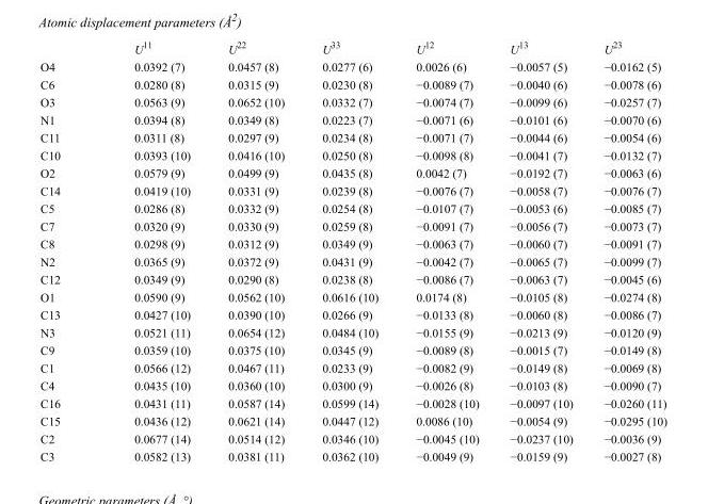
<table><thead><tr><td></td><td>U<sup>11</sup></td><td>U<sup>22</sup></td><td>U<sup>33</sup></td><td>U<sup>12</sup></td><td>U<sup>13</sup></td><td>U<sup>23</sup></td></tr></thead><tbody><tr><td>O4</td><td>0.0392 (7)</td><td>0.0457 (8)</td><td>0.0277 (6)</td><td>0.0026 (6)</td><td>−0.0057 (5)</td><td>−0.0162 (5)</td></tr><tr><td>C6</td><td>0.0280 (8)</td><td>0.0315 (9)</td><td>0.0230 (8)</td><td>−0.0089 (7)</td><td>−0.0040 (6)</td><td>−0.0078 (6)</td></tr><tr><td>O3</td><td>0.0563 (9)</td><td>0.0652 (10)</td><td>0.0332 (7)</td><td>−0.0074 (7)</td><td>−0.0099 (6)</td><td>−0.0257 (7)</td></tr><tr><td>N1</td><td>0.0394 (8)</td><td>0.0349 (8)</td><td>0.0223 (7)</td><td>−0.0071 (6)</td><td>−0.0101 (6)</td><td>−0.0070 (6)</td></tr><tr><td>C11</td><td>0.0311 (8)</td><td>0.0297 (9)</td><td>0.0234 (8)</td><td>−0.0071 (7)</td><td>−0.0044 (6)</td><td>−0.0054 (6)</td></tr><tr><td>C10</td><td>0.0393 (10)</td><td>0.0416 (10)</td><td>0.0250 (8)</td><td>−0.0098 (8)</td><td>−0.0041 (7)</td><td>−0.0132 (7)</td></tr><tr><td>O2</td><td>0.0579 (9)</td><td>0.0499 (9)</td><td>0.0435 (8)</td><td>0.0042 (7)</td><td>−0.0192 (7)</td><td>−0.0063 (6)</td></tr><tr><td>C14</td><td>0.0419 (10)</td><td>0.0331 (9)</td><td>0.0239 (8)</td><td>−0.0076 (7)</td><td>−0.0058 (7)</td><td>−0.0076 (7)</td></tr><tr><td>C5</td><td>0.0286 (8)</td><td>0.0332 (9)</td><td>0.0254 (8)</td><td>−0.0107 (7)</td><td>−0.0053 (6)</td><td>−0.0085 (7)</td></tr><tr><td>C7</td><td>0.0320 (9)</td><td>0.0330 (9)</td><td>0.0259 (8)</td><td>−0.0091 (7)</td><td>−0.0056 (7)</td><td>−0.0073 (7)</td></tr><tr><td>C8</td><td>0.0298 (9)</td><td>0.0312 (9)</td><td>0.0349 (9)</td><td>−0.0063 (7)</td><td>−0.0060 (7)</td><td>−0.0091 (7)</td></tr><tr><td>N2</td><td>0.0365 (9)</td><td>0.0372 (9)</td><td>0.0431 (9)</td><td>−0.0042 (7)</td><td>−0.0065 (7)</td><td>−0.0099 (7)</td></tr><tr><td>C12</td><td>0.0349 (9)</td><td>0.0290 (8)</td><td>0.0238 (8)</td><td>−0.0086 (7)</td><td>−0.0063 (7)</td><td>−0.0045 (6)</td></tr><tr><td>O1</td><td>0.0590 (9)</td><td>0.0562 (10)</td><td>0.0616 (10)</td><td>0.0174 (8)</td><td>−0.0105 (8)</td><td>−0.0274 (8)</td></tr><tr><td>C13</td><td>0.0427 (10)</td><td>0.0390 (10)</td><td>0.0266 (9)</td><td>−0.0133 (8)</td><td>−0.0060 (8)</td><td>−0.0086 (7)</td></tr><tr><td>N3</td><td>0.0521 (11)</td><td>0.0654 (12)</td><td>0.0484 (10)</td><td>−0.0155 (9)</td><td>−0.0213 (9)</td><td>−0.0120 (9)</td></tr><tr><td>C9</td><td>0.0359 (10)</td><td>0.0375 (10)</td><td>0.0345 (9)</td><td>−0.0089 (8)</td><td>−0.0015 (7)</td><td>−0.0149 (8)</td></tr><tr><td>C1</td><td>0.0566 (12)</td><td>0.0467 (11)</td><td>0.0233 (9)</td><td>−0.0082 (9)</td><td>−0.0149 (8)</td><td>−0.0069 (8)</td></tr><tr><td>C4</td><td>0.0435 (10)</td><td>0.0360 (10)</td><td>0.0300 (9)</td><td>−0.0026 (8)</td><td>−0.0103 (8)</td><td>−0.0090 (7)</td></tr><tr><td>C16</td><td>0.0431 (11)</td><td>0.0587 (14)</td><td>0.0599 (14)</td><td>−0.0028 (10)</td><td>−0.0097 (10)</td><td>−0.0260 (11)</td></tr><tr><td>C15</td><td>0.0436 (12)</td><td>0.0621 (14)</td><td>0.0447 (12)</td><td>0.0086 (10)</td><td>−0.0054 (9)</td><td>−0.0295 (10)</td></tr><tr><td>C2</td><td>0.0677 (14)</td><td>0.0514 (12)</td><td>0.0346 (10)</td><td>−0.0045 (10)</td><td>−0.0237 (10)</td><td>−0.0036 (9)</td></tr><tr><td>C3</td><td>0.0582 (13)</td><td>0.0381 (11)</td><td>0.0362 (10)</td><td>−0.0049 (9)</td><td>−0.0159 (9)</td><td>−0.0027 (8)</td></tr></tbody></table>